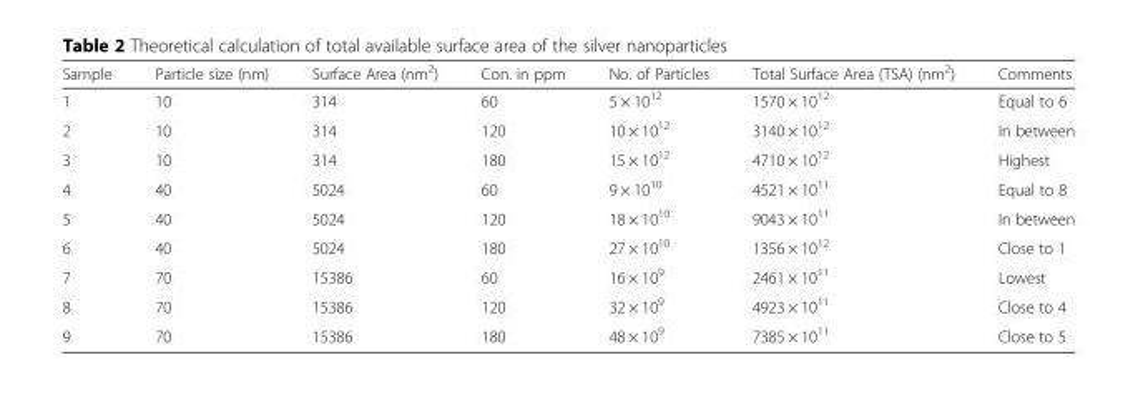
<table><thead><tr><td>Sample</td><td>Particle size (nm)</td><td>Surface Area (nm<sup>2</sup>)</td><td>Con. in ppm</td><td>No. of Particles</td><td>Total Surface Area (TSA) (nm<sup>2</sup>)</td><td>Comments</td></tr></thead><tbody><tr><td>1</td><td>10</td><td>314</td><td>60</td><td>5 × 10<sup>12</sup></td><td>1570 × 10<sup>12</sup></td><td>Equal to 6</td></tr><tr><td>2</td><td>10</td><td>314</td><td>120</td><td>10 × 10<sup>12</sup></td><td>3140 × 10<sup>12</sup></td><td>In between</td></tr><tr><td>3</td><td>10</td><td>314</td><td>180</td><td>15 × 10<sup>12</sup></td><td>4710 × 10<sup>12</sup></td><td>Highest</td></tr><tr><td>4</td><td>40</td><td>5024</td><td>60</td><td>9 × 10<sup>10</sup></td><td>4521 × 10<sup>11</sup></td><td>Equal to 8</td></tr><tr><td>5</td><td>40</td><td>5024</td><td>120</td><td>18 × 10<sup>10</sup></td><td>9043 × 10<sup>11</sup></td><td>In between</td></tr><tr><td>6</td><td>40</td><td>5024</td><td>180</td><td>27 × 10<sup>10</sup></td><td>1356 × 10<sup>12</sup></td><td>Close to 1</td></tr><tr><td>7</td><td>70</td><td>15386</td><td>60</td><td>16 × 10<sup>9</sup></td><td>2461 × 10<sup>11</sup></td><td>Lowest</td></tr><tr><td>8</td><td>70</td><td>15386</td><td>120</td><td>32 × 10<sup>9</sup></td><td>4923 × 10<sup>11</sup></td><td>Close to 4</td></tr><tr><td>9</td><td>70</td><td>15386</td><td>180</td><td>48 × 10<sup>9</sup></td><td>7385 × 10<sup>11</sup></td><td>Close to 5</td></tr></tbody></table>